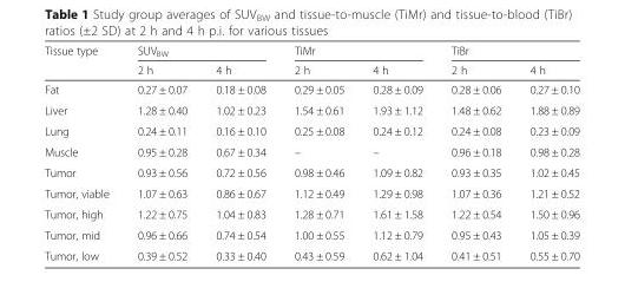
<table><thead><tr><td rowspan="2">Tissue type</td><td colspan="2">SUV<sub>BW</sub></td><td colspan="2">TiMr</td><td colspan="2">TiBr</td></tr><tr><td>2 h</td><td>4 h</td><td>2 h</td><td>4 h</td><td>2 h</td><td>4 h</td></tr></thead><tbody><tr><td>Fat</td><td>0.27 ± 0.07</td><td>0.18 ± 0.08</td><td>0.29 ± 0.05</td><td>0.28 ± 0.09</td><td>0.28 ± 0.06</td><td>0.27 ± 0.10</td></tr><tr><td>Liver</td><td>1.28 ± 0.40</td><td>1.02 ± 0.23</td><td>1.54 ± 0.61</td><td>1.93 ± 1.12</td><td>1.48 ± 0.62</td><td>1.88 ± 0.89</td></tr><tr><td>Lung</td><td>0.24 ± 0.11</td><td>0.16 ± 0.10</td><td>0.25 ± 0.08</td><td>0.24 ± 0.12</td><td>0.24 ± 0.08</td><td>0.23 ± 0.09</td></tr><tr><td>Muscle</td><td>0.95 ± 0.28</td><td>0.67 ± 0.34</td><td>–</td><td>–</td><td>0.96 ± 0.18</td><td>0.98 ± 0.28</td></tr><tr><td>Tumor</td><td>0.93 ± 0.56</td><td>0.72 ± 0.56</td><td>0.98 ± 0.46</td><td>1.09 ± 0.82</td><td>0.93 ± 0.35</td><td>1.02 ± 0.45</td></tr><tr><td>Tumor, viable</td><td>1.07 ± 0.63</td><td>0.86 ± 0.67</td><td>1.12 ± 0.49</td><td>1.29 ± 0.98</td><td>1.07 ± 0.36</td><td>1.21 ± 0.52</td></tr><tr><td>Tumor, high</td><td>1.22 ± 0.75</td><td>1.04 ± 0.83</td><td>1.28 ± 0.71</td><td>1.61 ± 1.58</td><td>1.22 ± 0.54</td><td>1.50 ± 0.96</td></tr><tr><td>Tumor, mid</td><td>0.96 ± 0.66</td><td>0.74 ± 0.54</td><td>1.00 ± 0.55</td><td>1.12 ± 0.79</td><td>0.95 ± 0.43</td><td>1.05 ± 0.39</td></tr><tr><td>Tumor, low</td><td>0.39 ± 0.52</td><td>0.33 ± 0.40</td><td>0.43 ± 0.59</td><td>0.62 ± 1.04</td><td>0.41 ± 0.51</td><td>0.55 ± 0.70</td></tr></tbody></table>